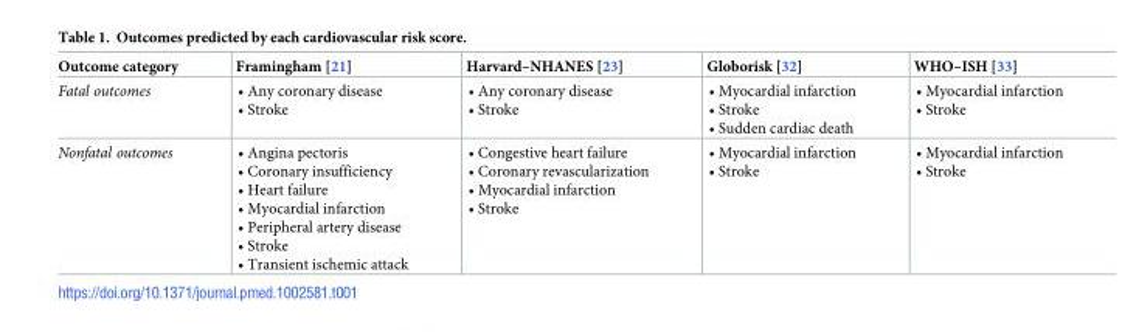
<table><thead><tr><td>Outcome category</td><td>Framingham [21]</td><td>Harvard–NHANES [23]</td><td>Globorisk [32]</td><td>WHO–ISH [33]</td></tr></thead><tbody><tr><td>Fatal outcomes</td><td>• Any coronary disease • Stroke</td><td>• Any coronary disease • Stroke</td><td>• Myocardial infarction • Stroke • Sudden cardiac death</td><td>• Myocardial infarction • Stroke</td></tr><tr><td>Nonfatal outcomes</td><td>• Angina pectoris • Coronary insufficiency • Heart failure • Myocardial infarction • Peripheral artery disease • Stroke • Transient ischemic attack</td><td>• Congestive heart failure • Coronary revascularization • Myocardial infarction • Stroke</td><td>• Myocardial infarction • Stroke</td><td>• Myocardial infarction • Stroke</td></tr></tbody></table>